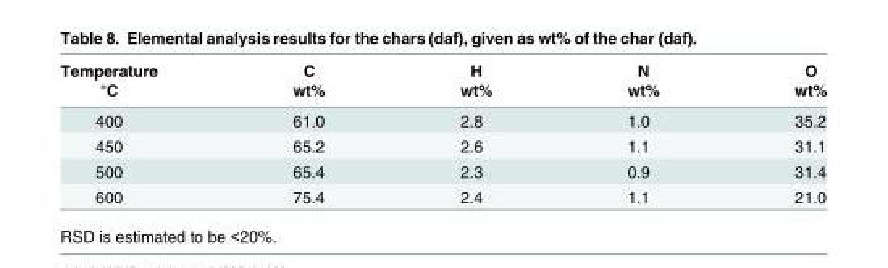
<table><thead><tr><td rowspan="2">Temperature °C</td><td rowspan="2">C wt%</td><td rowspan="2">H wt%</td><td rowspan="2">N wt%</td><td rowspan="2">O wt%</td></tr><tr></tr></thead><tbody><tr><td>400</td><td>61.0</td><td>2.8</td><td>1.0</td><td>35.2</td></tr><tr><td>450</td><td>65.2</td><td>2.6</td><td>1.1</td><td>31.1</td></tr><tr><td>500</td><td>65.4</td><td>2.3</td><td>0.9</td><td>31.4</td></tr><tr><td>600</td><td>75.4</td><td>2.4</td><td>1.1</td><td>21.0</td></tr></tbody></table>